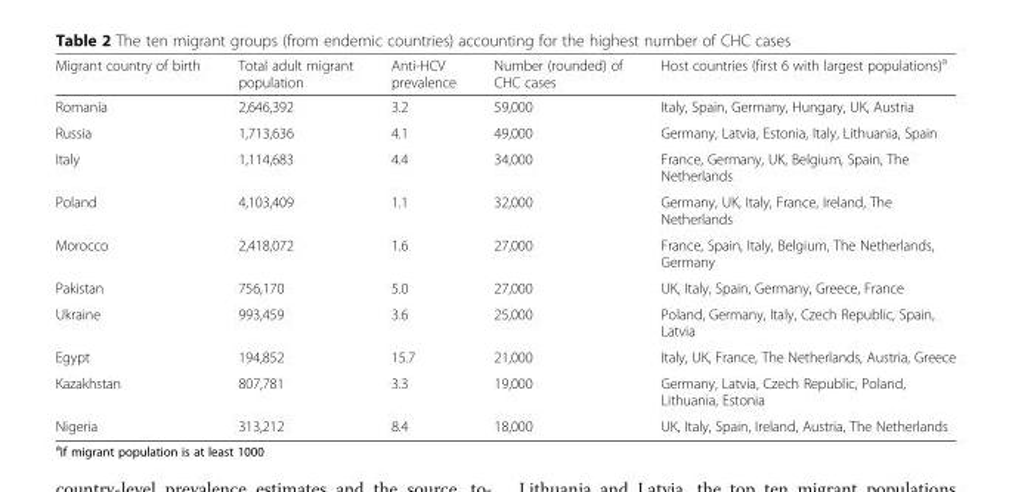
<table><thead><tr><td>Migrant country of birth</td><td>Total adult migrant population</td><td>Anti-HCV prevalence</td><td>Number (rounded) of CHC cases</td><td>Host countries (first 6 with largest populations)<sup>a</sup></td></tr></thead><tbody><tr><td>Romania</td><td>2,646,392</td><td>3.2</td><td>59,000</td><td>Italy, Spain, Germany, Hungary, UK, Austria</td></tr><tr><td>Russia</td><td>1,713,636</td><td>4.1</td><td>49,000</td><td>Germany, Latvia, Estonia, Italy, Lithuania, Spain</td></tr><tr><td>Italy</td><td>1,114,683</td><td>4.4</td><td>34,000</td><td>France, Germany, UK, Belgium, Spain, The Netherlands</td></tr><tr><td>Poland</td><td>4,103,409</td><td>1.1</td><td>32,000</td><td>Germany, UK, Italy, France, Ireland, The Netherlands</td></tr><tr><td>Morocco</td><td>2,418,072</td><td>1.6</td><td>27,000</td><td>France, Spain, Italy, Belgium, The Netherlands, Germany</td></tr><tr><td>Pakistan</td><td>756,170</td><td>5.0</td><td>27,000</td><td>UK, Italy, Spain, Germany, Greece, France</td></tr><tr><td>Ukraine</td><td>993,459</td><td>3.6</td><td>25,000</td><td>Poland, Germany, Italy, Czech Republic, Spain, Latvia</td></tr><tr><td>Egypt</td><td>194,852</td><td>15.7</td><td>21,000</td><td>Italy, UK, France, The Netherlands, Austria, Greece</td></tr><tr><td>Kazakhstan</td><td>807,781</td><td>3.3</td><td>19,000</td><td>Germany, Latvia, Czech Republic, Poland, Lithuania, Estonia</td></tr><tr><td>Nigeria</td><td>313,212</td><td>8.4</td><td>18,000</td><td>UK, Italy, Spain, Ireland, Austria, The Netherlands</td></tr></tbody></table>